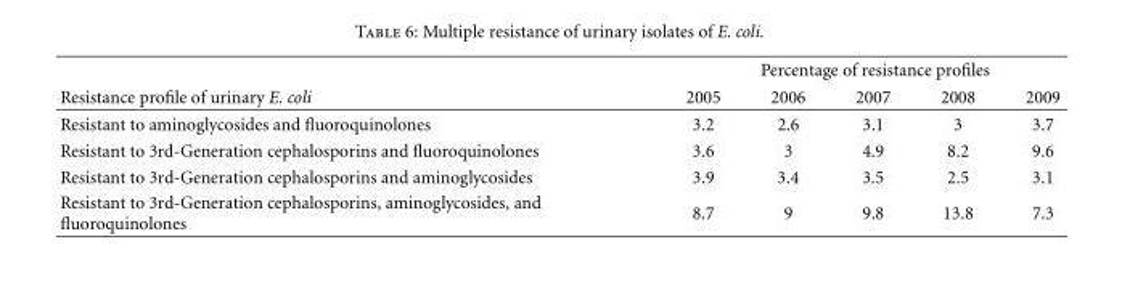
<table><thead><tr><td rowspan="2">Resistance profile of urinary E. coli</td><td colspan="5">Percentage of resistance profiles</td></tr><tr><td>2005</td><td>2006</td><td>2007</td><td>2008</td><td>2009</td></tr></thead><tbody><tr><td>Resistant to aminoglycosides and fluoroquinolones</td><td>3.2</td><td>2.6</td><td>3.1</td><td>3</td><td>3.7</td></tr><tr><td>Resistant to 3rd-Generation cephalosporins and fluoroquinolones</td><td>3.6</td><td>3</td><td>4.9</td><td>8.2</td><td>9.6</td></tr><tr><td>Resistant to 3rd-Generation cephalosporins and aminoglycosides</td><td>3.9</td><td>3.4</td><td>3.5</td><td>2.5</td><td>3.1</td></tr><tr><td>Resistant to 3rd-Generation cephalosporins, aminoglycosides, and fluoroquinolones</td><td>8.7</td><td>9</td><td>9.8</td><td>13.8</td><td>7.3</td></tr></tbody></table>